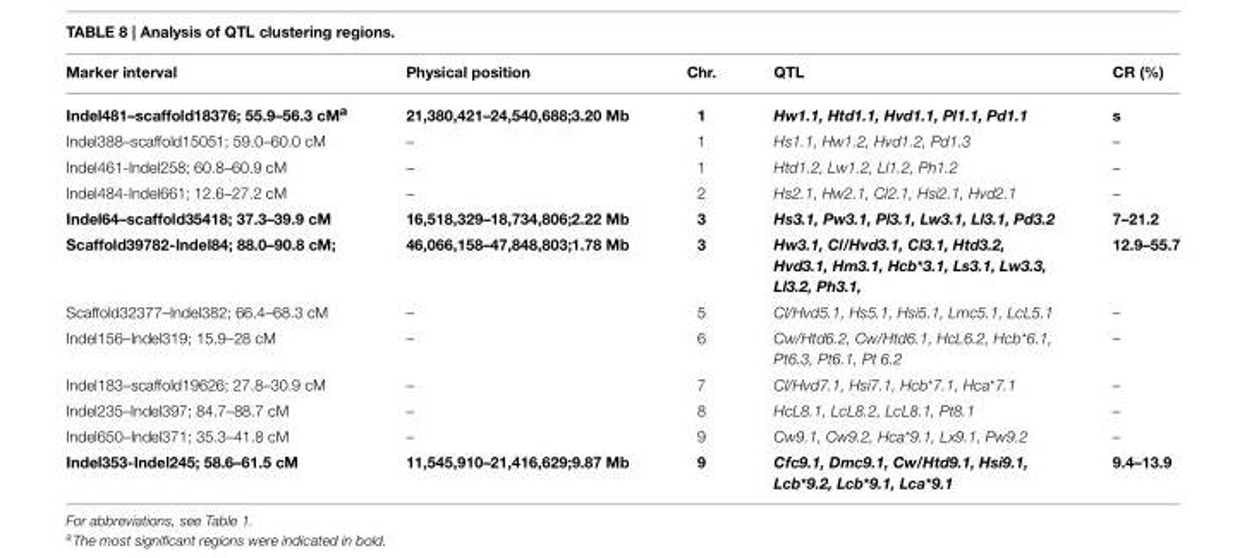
<table><thead><tr><td>Marker interval</td><td>Physical position</td><td>Chr.</td><td>QTL</td><td>CR (%)</td></tr></thead><tbody><tr><td>Indel481–scaffold18376; 55.9–56.3 cM<sup>a</sup></td><td>21,380,421–24,540,688;3.20 Mb</td><td>1</td><td>Hw1.1, Htd1.1, Hvd1.1, Pl1.1, Pd1.1</td><td>s</td></tr><tr><td>Indel388–scaffold15051; 59.0–60.0 cM</td><td>–</td><td>1</td><td>Hs1.1, Hw1.2, Hvd1.2, Pd1.3</td><td>–</td></tr><tr><td>Indel461-Indel258; 60.8–60.9 cM</td><td>–</td><td>1</td><td>Htd1.2, Lw1.2, Ll1.2, Ph1.2</td><td>–</td></tr><tr><td>Indel484-Indel661; 12.6–27.2 cM</td><td>–</td><td>2</td><td>Hs2.1, Hw2.1, Cl2.1, Hsi2.1, Hvd2.1</td><td>–</td></tr><tr><td>Indel64–scaffold35418; 37.3–39.9 cM</td><td>16,518,329–18,734,806;2.22 Mb</td><td>3</td><td>Hs3.1, Pw3.1, Pl3.1, Lw3.1, Ll3.1, Pd3.2</td><td>7–21.2</td></tr><tr><td>Scaffold39782-Indel84; 88.0–90.8 cM;</td><td>46,066,158–47,848,803;1.78 Mb</td><td>3</td><td>Hw3.1, Cl/Hvd3.1, Cl3.1, Htd3.2, Hvd3.1, Hm3.1, Hcb*3.1, Ls3.1, Lw3.3, Ll3.2, Ph3.1,</td><td>12.9–55.7</td></tr><tr><td>Scaffold32377–Indel382; 66.4–68.3 cM</td><td>–</td><td>5</td><td>Cl/Hvd5.1, Hs5.1, Hsi5.1, Lmc5.1, LcL5.1</td><td>–</td></tr><tr><td>Indel156–Indel319; 15.9–28 cM</td><td>–</td><td>6</td><td>Cw/Htd6.2, Cw/Htd6.1, HcL6.2, Hcb*6.1, Pt6.3, Pt6.1, Pt 6.2</td><td>–</td></tr><tr><td>Indel183–scaffold19626; 27.8–30.9 cM</td><td>–</td><td>7</td><td>Cl/Hvd7.1, Hsi7.1, Hcb*7.1, Hca*7.1</td><td>–</td></tr><tr><td>Indel235–Indel397; 84.7–88.7 cM</td><td>–</td><td>8</td><td>HcL8.1, LcL8.2, LcL8.1, Pt8.1</td><td>–</td></tr><tr><td>Indel650–Indel371; 35.3–41.8 cM</td><td>–</td><td>9</td><td>Cw9.1, Cw9.2, Hca*9.1, Lx9.1, Pw9.2</td><td>–</td></tr><tr><td>Indel353-Indel245; 58.6–61.5 cM</td><td>11,545,910–21,416,629;9.87 Mb</td><td>9</td><td>Cfc9.1, Dmc9.1, Cw/Htd9.1, Hsi9.1, Lcb*9.2, Lcb*9.1, Lca*9.1</td><td>9.4–13.9</td></tr></tbody></table>